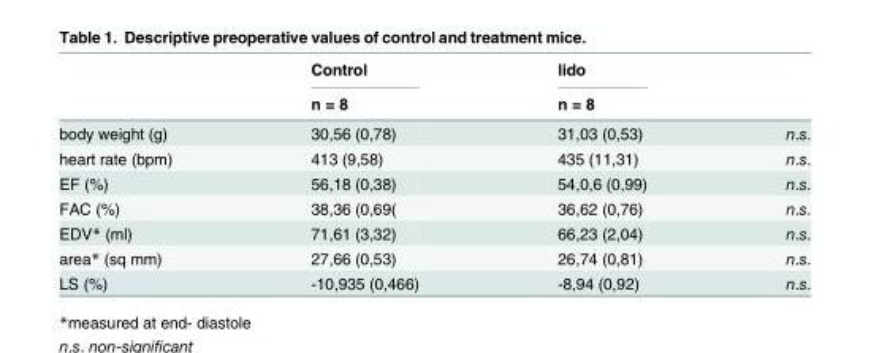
<table><thead><tr><td rowspan="2"></td><td rowspan="2">Control n = 8</td><td rowspan="2">lido n = 8</td><td rowspan="2"></td></tr><tr></tr></thead><tbody><tr><td>body weight (g)</td><td>30,56 (0,78)</td><td>31,03 (0,53)</td><td>n.s.</td></tr><tr><td>heart rate (bpm)</td><td>413 (9,58)</td><td>435 (11,31)</td><td>n.s.</td></tr><tr><td>EF (%)</td><td>56,18 (0,38)</td><td>54,0,6 (0,99)</td><td>n.s.</td></tr><tr><td>FAC (%)</td><td>38,36 (0,69(</td><td>36,62 (0,76)</td><td>n.s.</td></tr><tr><td>EDV* (ml)</td><td>71,61 (3,32)</td><td>66,23 (2,04)</td><td>n.s.</td></tr><tr><td>area* (sq mm)</td><td>27,66 (0,53)</td><td>26,74 (0,81)</td><td>n.s.</td></tr><tr><td>LS (%)</td><td>-10,935 (0,466)</td><td>-8,94 (0,92)</td><td>n.s.</td></tr></tbody></table>